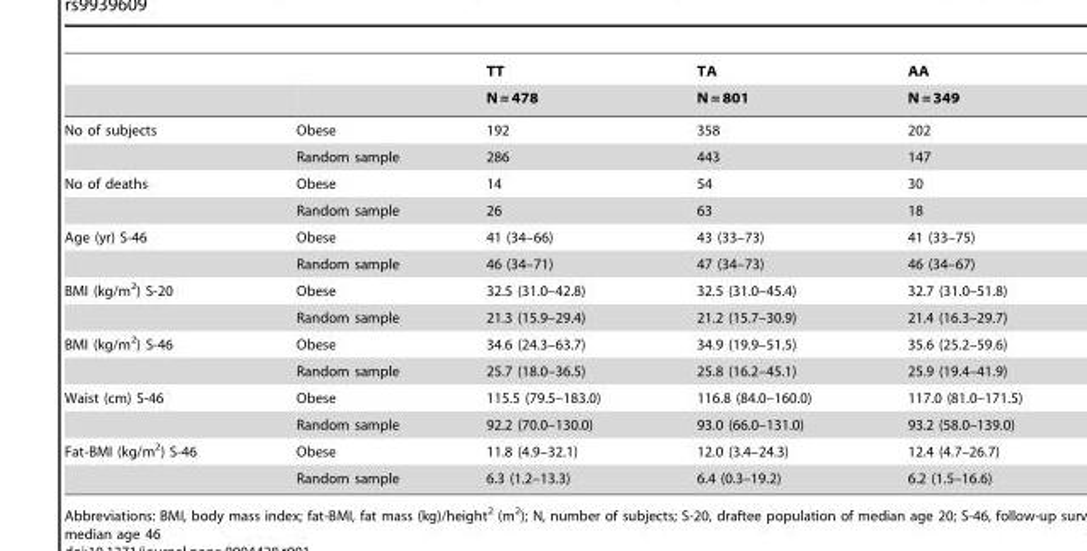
<table><thead><tr><td rowspan="2"></td><td rowspan="2"></td><td rowspan="2">TT N = 478</td><td rowspan="2">TA N = 801</td><td rowspan="2">AA N = 349</td></tr><tr></tr></thead><tbody><tr><td rowspan="2">No of subjects</td><td>Obese</td><td>192</td><td>358</td><td>202</td></tr><tr><td>Random sample</td><td>286</td><td>443</td><td>147</td></tr><tr><td rowspan="2">No of deaths</td><td>Obese</td><td>14</td><td>54</td><td>30</td></tr><tr><td>Random sample</td><td>26</td><td>63</td><td>18</td></tr><tr><td rowspan="2">Age (yr) S-46</td><td>Obese</td><td>41 (34–66)</td><td>43 (33–73)</td><td>41 (33–75)</td></tr><tr><td>Random sample</td><td>46 (34–71)</td><td>47 (34–73)</td><td>46 (34–67)</td></tr><tr><td rowspan="2">BMI (kg/m<sup>2</sup>) S-20</td><td>Obese</td><td>32.5 (31.0–42.8)</td><td>32.5 (31.0–45.4)</td><td>32.7 (31.0–51.8)</td></tr><tr><td>Random sample</td><td>21.3 (15.9–29.4)</td><td>21.2 (15.7–30.9)</td><td>21.4 (16.3–29.7)</td></tr><tr><td rowspan="2">BMI (kg/m<sup>2</sup>) S-46</td><td>Obese</td><td>34.6 (24.3–63.7)</td><td>34.9 (19.9–51.5)</td><td>35.6 (25.2–59.6)</td></tr><tr><td>Random sample</td><td>25.7 (18.0–36.5)</td><td>25.8 (16.2–45.1)</td><td>25.9 (19.4–41.9)</td></tr><tr><td rowspan="2">Waist (cm) S-46</td><td>Obese</td><td>115.5 (79.5–183.0)</td><td>116.8 (84.0–160.0)</td><td>117.0 (81.0–171.5)</td></tr><tr><td>Random sample</td><td>92.2 (70.0–130.0)</td><td>93.0 (66.0–131.0)</td><td>93.2 (58.0–139.0)</td></tr><tr><td rowspan="2">Fat-BMI (kg/m<sup>2</sup>) S-46</td><td>Obese</td><td>11.8 (4.9–32.1)</td><td>12.0 (3.4–24.3)</td><td>12.4 (4.7–26.7)</td></tr><tr><td>Random sample</td><td>6.3 (1.2–13.3)</td><td>6.4 (0.3–19.2)</td><td>6.2 (1.5–16.6)</td></tr></tbody></table>